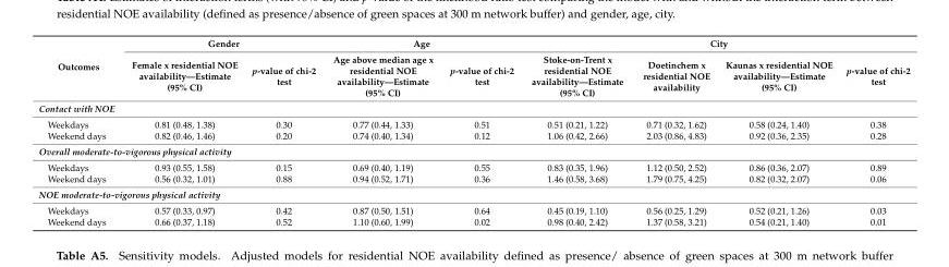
<table><thead><tr><td rowspan="2">Outcomes</td><td colspan="2">Gender</td><td colspan="2">Age</td><td colspan="4">City</td></tr><tr><td>Female x residential NOE availability—Estimate (95% CI)</td><td>p-value of chi-2 test</td><td>Age above median age x residential NOE availability—Estimate (95% CI)</td><td>p-value of chi-2 test</td><td>Stoke-on-Trent x residential NOE availability—Estimate (95% CI)</td><td>Doetinchem x residential NOE availability</td><td>Kaunas x residential NOE availability—Estimate (95% CI)</td><td>p-value of chi-2 test</td></tr></thead><tbody><tr><td colspan="9">Contact with NOE</td></tr><tr><td>Weekdays</td><td>0.81 (0.48, 1.38)</td><td>0.30</td><td>0.77 (0.44, 1.33)</td><td>0.51</td><td>0.51 (0.21, 1.22)</td><td>0.71 (0.32, 1.62)</td><td>0.58 (0.24, 1.40)</td><td>0.38</td></tr><tr><td>Weekend days</td><td>0.82 (0.46, 1.46)</td><td>0.20</td><td>0.74 (0.40, 1.34)</td><td>0.12</td><td>1.06 (0.42, 2.66)</td><td>2.03 (0.86, 4.83)</td><td>0.92 (0.36, 2.35)</td><td>0.28</td></tr><tr><td colspan="9">Overall moderate-to-vigorous physical activity</td></tr><tr><td>Weekdays</td><td>0.93 (0.55, 1.58)</td><td>0.15</td><td>0.69 (0.40, 1.19)</td><td>0.55</td><td>0.83 (0.35, 1.96)</td><td>1.12 (0.50, 2.52)</td><td>0.86 (0.36, 2.07)</td><td>0.89</td></tr><tr><td>Weekend days</td><td>0.56 (0.32, 1.01)</td><td>0.88</td><td>0.94 (0.52, 1.71)</td><td>0.36</td><td>1.46 (0.58, 3.68)</td><td>1.79 (0.75, 4.25)</td><td>0.82 (0.32, 2.07)</td><td>0.06</td></tr><tr><td colspan="9">NOE moderate-to-vigorous physical activity</td></tr><tr><td>Weekdays</td><td>0.57 (0.33, 0.97)</td><td>0.42</td><td>0.87 (0.50, 1.51)</td><td>0.64</td><td>0.45 (0.19, 1.10)</td><td>0.56 (0.25, 1.29)</td><td>0.52 (0.21, 1.26)</td><td>0.03</td></tr><tr><td>Weekend days</td><td>0.66 (0.37, 1.18)</td><td>0.52</td><td>1.10 (0.60, 1.99)</td><td>0.02</td><td>0.98 (0.40, 2.42)</td><td>1.37 (0.58, 3.21)</td><td>0.54 (0.21, 1.40)</td><td>0.01</td></tr></tbody></table>